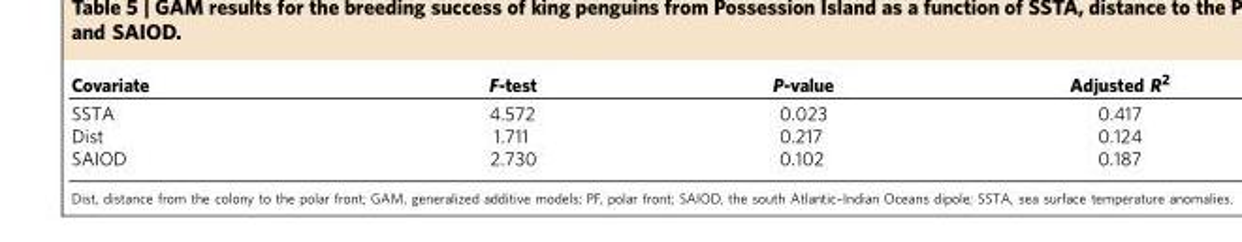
<table><thead><tr><td>Covariate</td><td>F-test</td><td>P-value</td><td>Adjusted R<sup>2</sup></td></tr></thead><tbody><tr><td>SSTA</td><td>4.572</td><td>0.023</td><td>0.417</td></tr><tr><td>Dist</td><td>1.711</td><td>0.217</td><td>0.124</td></tr><tr><td>SAIOD</td><td>2.730</td><td>0.102</td><td>0.187</td></tr></tbody></table>